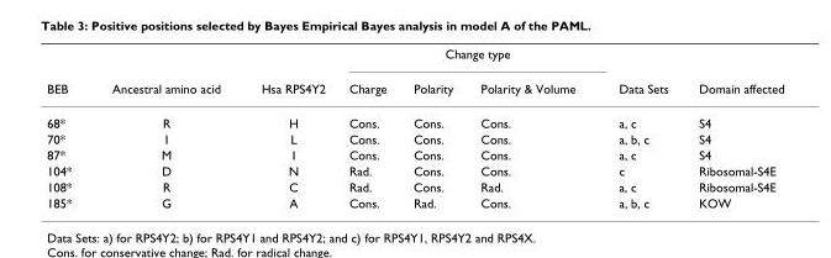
<table><thead><tr><td rowspan="2">BEB</td><td rowspan="2">Ancestral amino acid</td><td rowspan="2">Hsa RPS4Y2</td><td colspan="3">Change type</td><td rowspan="2">Data Sets</td><td rowspan="2">Domain affected</td></tr><tr><td>Charge</td><td>Polarity</td><td>Polarity &amp; Volume</td></tr></thead><tbody><tr><td>68*</td><td>R</td><td>H</td><td>Cons.</td><td>Cons.</td><td>Cons.</td><td>a, c</td><td>S4</td></tr><tr><td>70*</td><td>I</td><td>L</td><td>Cons.</td><td>Cons.</td><td>Cons.</td><td>a, b, c</td><td>S4</td></tr><tr><td>87*</td><td>M</td><td>I</td><td>Cons.</td><td>Cons.</td><td>Cons.</td><td>a, c</td><td>S4</td></tr><tr><td>104*</td><td>D</td><td>N</td><td>Rad.</td><td>Cons.</td><td>Cons.</td><td>c</td><td>Ribosomal-S4E</td></tr><tr><td>108*</td><td>R</td><td>C</td><td>Rad.</td><td>Cons.</td><td>Rad.</td><td>a, c</td><td>Ribosomal-S4E</td></tr><tr><td>185*</td><td>G</td><td>A</td><td>Cons.</td><td>Rad.</td><td>Cons.</td><td>a, b, c</td><td>KOW</td></tr></tbody></table>